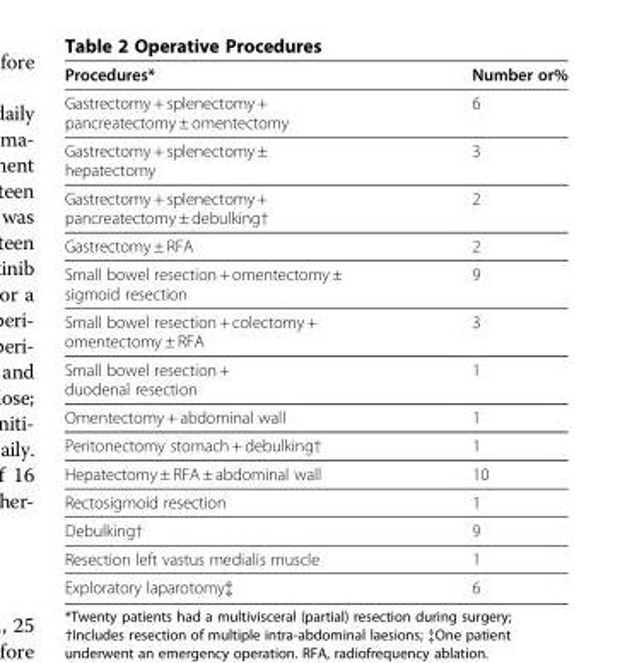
<table><thead><tr><td>Procedures*</td><td>Number or%</td></tr></thead><tbody><tr><td>Gastrectomy + splenectomy + pancreatectomy ± omentectomy</td><td>6</td></tr><tr><td>Gastrectomy + splenectomy ± hepatectomy</td><td>3</td></tr><tr><td>Gastrectomy + splenectomy + pancreatectomy ± debulking†</td><td>2</td></tr><tr><td>Gastrectomy ± RFA</td><td>2</td></tr><tr><td>Small bowel resection + omentectomy ± sigmoid resection</td><td>9</td></tr><tr><td>Small bowel resection + colectomy + omentectomy ± RFA</td><td>3</td></tr><tr><td>Small bowel resection + duodenal resection</td><td>1</td></tr><tr><td>Omentectomy + abdominal wall</td><td>1</td></tr><tr><td>Peritonectomy stomach + debulking†</td><td>1</td></tr><tr><td>Hepatectomy ± RFA ± abdominal wall</td><td>10</td></tr><tr><td>Rectosigmoid resection</td><td>1</td></tr><tr><td>Debulking†</td><td>9</td></tr><tr><td>Resection left vastus medialis muscle</td><td>1</td></tr><tr><td>Exploratory laparotomy‡</td><td>6</td></tr></tbody></table>